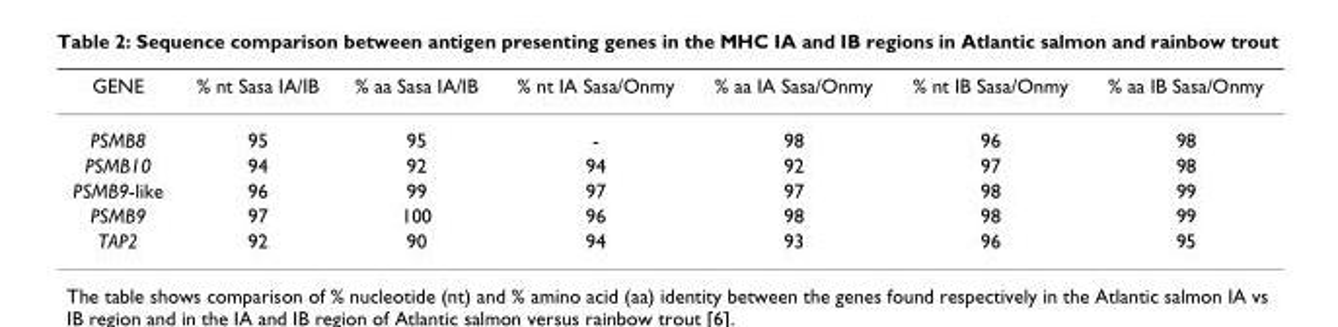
<table><thead><tr><td>GENE</td><td>% nt Sasa IA/IB</td><td>% aa Sasa IA/IB</td><td>% nt IA Sasa/Onmy</td><td>% aa IA Sasa/Onmy</td><td>% nt IB Sasa/Onmy</td><td>% aa IB Sasa/Onmy</td></tr></thead><tbody><tr><td>PSMB8</td><td>95</td><td>95</td><td>-</td><td>98</td><td>96</td><td>98</td></tr><tr><td>PSMB10</td><td>94</td><td>92</td><td>94</td><td>92</td><td>97</td><td>98</td></tr><tr><td>PSMB9-like</td><td>96</td><td>99</td><td>97</td><td>97</td><td>98</td><td>99</td></tr><tr><td>PSMB9</td><td>97</td><td>100</td><td>96</td><td>98</td><td>98</td><td>99</td></tr><tr><td>TAP2</td><td>92</td><td>90</td><td>94</td><td>93</td><td>96</td><td>95</td></tr></tbody></table>